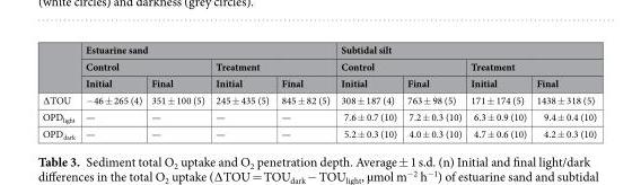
<table><thead><tr><td rowspan="3"></td><td colspan="4">Estuarine sand</td><td colspan="4">Subtidal silt</td></tr><tr><td colspan="2">Control</td><td colspan="2">Treatment</td><td colspan="2">Control</td><td colspan="2">Treatment</td></tr><tr><td>Initial</td><td>Final</td><td>Initial</td><td>Final</td><td>Initial</td><td>Final</td><td>Initial</td><td>Final</td></tr></thead><tbody><tr><td>∆TOU</td><td>−46 ± 265 (4)</td><td>351 ± 100 (5)</td><td>245 ± 435 (5)</td><td>845 ± 82 (5)</td><td>308 ± 187 (4)</td><td>763 ± 98 (5)</td><td>171 ± 174 (5)</td><td>1438 ± 318 (5)</td></tr><tr><td>OPD<sub>light</sub></td><td>—</td><td>—</td><td>—</td><td>—</td><td>7.6 ± 0.7 (10)</td><td>7.2 ± 0.3 (10)</td><td>6.3 ± 0.9 (10)</td><td>9.4 ± 0.4 (10)</td></tr><tr><td>OPD<sub>dark</sub></td><td>—</td><td>—</td><td>—</td><td>—</td><td>5.2 ± 0.3 (10)</td><td>4.0 ± 0.3 (10)</td><td>4.7 ± 0.6 (10)</td><td>4.2 ± 0.3 (10)</td></tr></tbody></table>